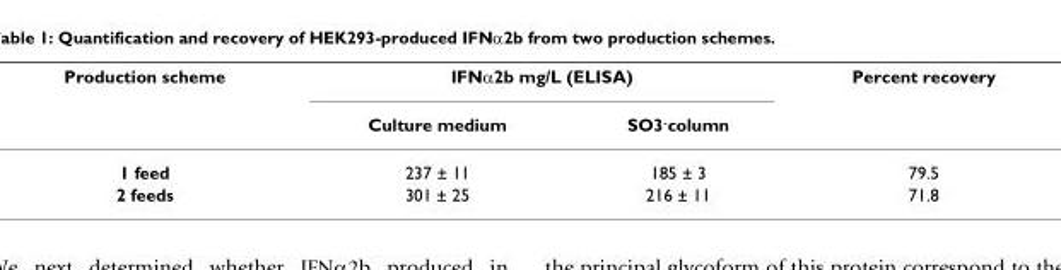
<table><thead><tr><td rowspan="2">Production scheme</td><td colspan="2">IFNα2b mg/L (ELISA)</td><td rowspan="2">Percent recovery</td></tr><tr><td>Culture medium</td><td>SO3<sup>-</sup>column</td></tr></thead><tbody><tr><td>1 feed</td><td>237 ± 11</td><td>185 ± 3</td><td>79.5</td></tr><tr><td>2 feeds</td><td>301 ± 25</td><td>216 ± 11</td><td>71.8</td></tr></tbody></table>